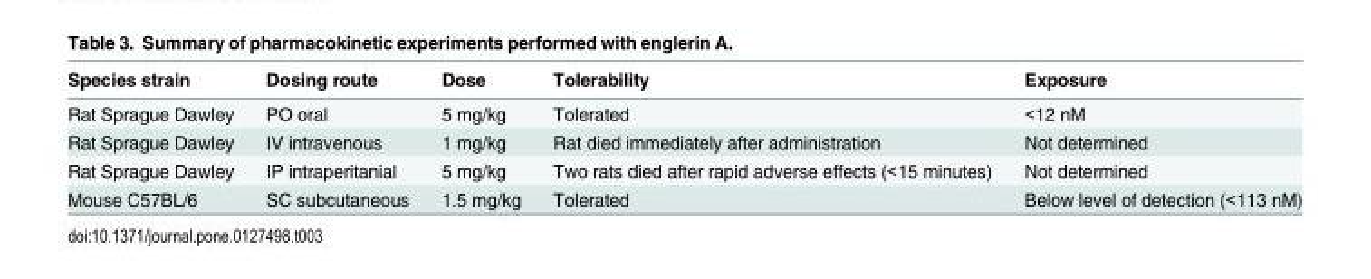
<table><thead><tr><td>Species strain</td><td>Dosing route</td><td>Dose</td><td>Tolerability</td><td>Exposure</td></tr></thead><tbody><tr><td>Rat Sprague Dawley</td><td>PO oral</td><td>5 mg/kg</td><td>Tolerated</td><td>&lt;12 nM</td></tr><tr><td>Rat Sprague Dawley</td><td>IV intravenous</td><td>1 mg/kg</td><td>Rat died immediately after administration</td><td>Not determined</td></tr><tr><td>Rat Sprague Dawley</td><td>IP intraperitanial</td><td>5 mg/kg</td><td>Two rats died after rapid adverse effects (&lt;15 minutes)</td><td>Not determined</td></tr><tr><td>Mouse C57BL/6</td><td>SC subcutaneous</td><td>1.5 mg/kg</td><td>Tolerated</td><td>Below level of detection (&lt;113 nM)</td></tr></tbody></table>